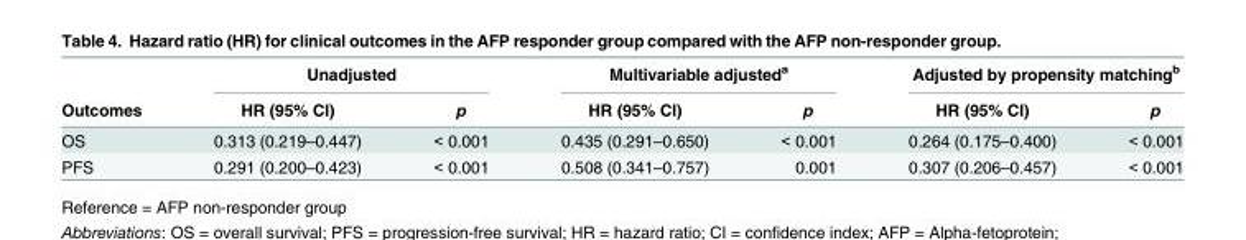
<table><thead><tr><td rowspan="2">Outcomes</td><td colspan="2">Unadjusted</td><td colspan="2">Multivariable adjusted<sup>a</sup></td><td colspan="2">Adjusted by propensity matching<sup>b</sup></td></tr><tr><td>HR (95% CI)</td><td>p</td><td>HR (95% CI)</td><td>p</td><td>HR (95% CI)</td><td>p</td></tr></thead><tbody><tr><td>OS</td><td>0.313 (0.219–0.447)</td><td>&lt; 0.001</td><td>0.435 (0.291–0.650)</td><td>&lt; 0.001</td><td>0.264 (0.175–0.400)</td><td>&lt; 0.001</td></tr><tr><td>PFS</td><td>0.291 (0.200–0.423)</td><td>&lt; 0.001</td><td>0.508 (0.341–0.757)</td><td>0.001</td><td>0.307 (0.206–0.457)</td><td>&lt; 0.001</td></tr></tbody></table>